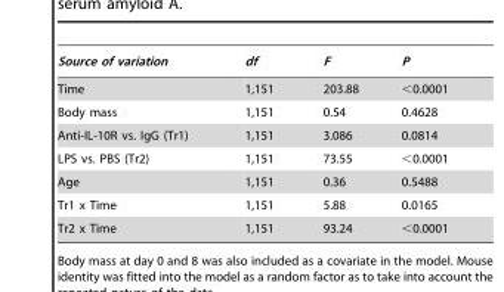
<table><thead><tr><td>Source of variation</td><td>df</td><td>F</td><td>P</td></tr></thead><tbody><tr><td>Time</td><td>1,151</td><td>203.88</td><td>&lt;0.0001</td></tr><tr><td>Body mass</td><td>1,151</td><td>0.54</td><td>0.4628</td></tr><tr><td>Anti-IL-10R vs. IgG (Tr1)</td><td>1,151</td><td>3.086</td><td>0.0814</td></tr><tr><td>LPS vs. PBS (Tr2)</td><td>1,151</td><td>73.55</td><td>&lt;0.0001</td></tr><tr><td>Age</td><td>1,151</td><td>0.36</td><td>0.5488</td></tr><tr><td>Tr1 x Time</td><td>1,151</td><td>5.88</td><td>0.0165</td></tr><tr><td>Tr2 x Time</td><td>1,151</td><td>93.24</td><td>&lt;0.0001</td></tr></tbody></table>